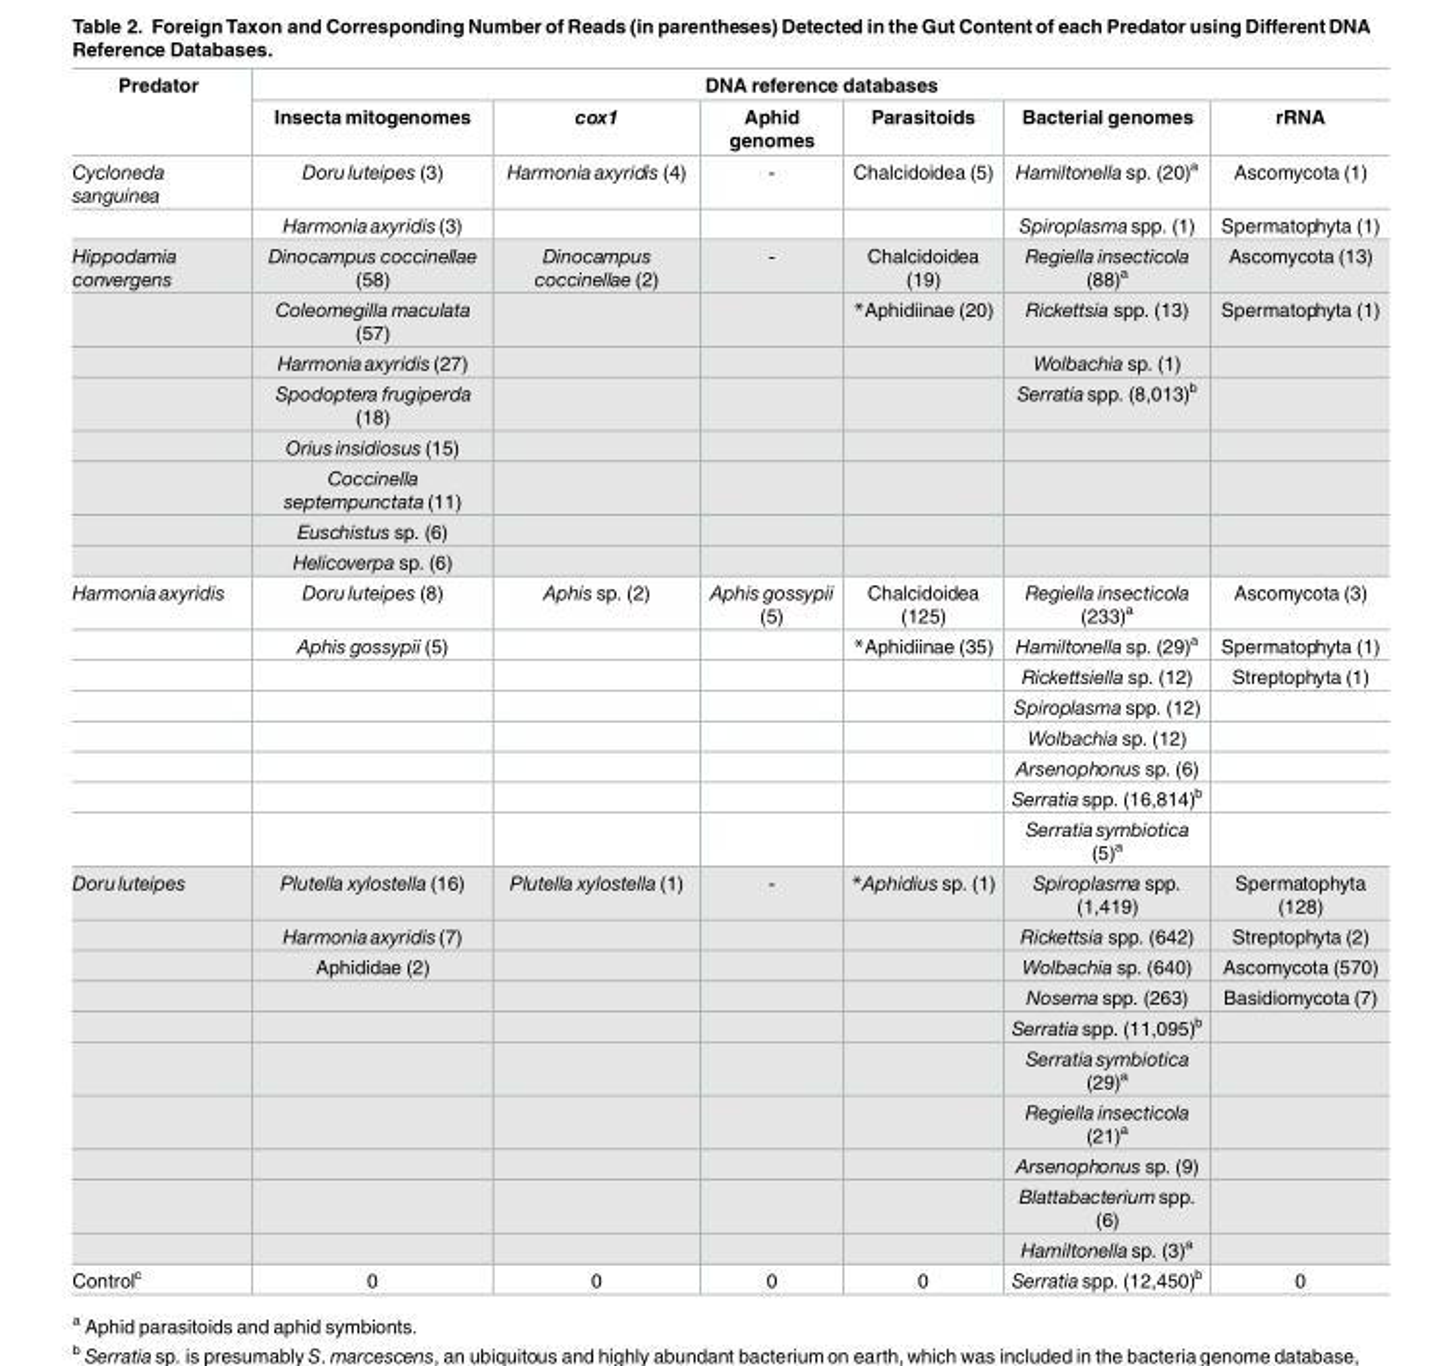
<table><thead><tr><td rowspan="2">Predator</td><td colspan="6">DNA reference databases</td></tr><tr><td>Insecta mitogenomes</td><td>cox1</td><td>Aphid genomes</td><td>Parasitoids</td><td>Bacterial genomes</td><td>rRNA</td></tr></thead><tbody><tr><td rowspan="2">Cycloneda sanguinea</td><td>Doru luteipes (3)</td><td>Harmonia axyridis (4)</td><td>-</td><td>Chalcidoidea (5)</td><td>Hamiltonella sp. (20)<sup>a</sup></td><td>Ascomycota (1)</td></tr><tr><td>Harmoniaaxyridis (3)</td><td></td><td></td><td></td><td>Spiroplasmaspp. (1)</td><td>Spermatophyta (1)</td></tr><tr><td rowspan="8">Hippodamia convergens</td><td>Dinocampus coccinellae (58)</td><td>Dinocampus coccinellae (2)</td><td>-</td><td>Chalcidoidea (19)</td><td>Regiella insecticola (88)<sup>a</sup></td><td>Ascomycota (13)</td></tr><tr><td>Coleomegilla maculata (57)</td><td></td><td></td><td>*Aphidiinae (20)</td><td>Rickettsia spp. (13)</td><td>Spermatophyta (1)</td></tr><tr><td>Harmoniaaxyridis (27)</td><td></td><td></td><td></td><td>Wolbachia sp. (1)</td><td></td></tr><tr><td>Spodoptera frugiperda (18)</td><td></td><td></td><td></td><td>Serratia spp. (8,013)<sup>b</sup></td><td></td></tr><tr><td>Orius insidiosus (15)</td><td></td><td></td><td></td><td></td><td></td></tr><tr><td>Coccinella septempunctata (11)</td><td></td><td></td><td></td><td></td><td></td></tr><tr><td>Euschistus sp. (6)</td><td></td><td></td><td></td><td></td><td></td></tr><tr><td>Helicoverpa sp. (6)</td><td></td><td></td><td></td><td></td><td></td></tr><tr><td rowspan="8">Harmoniaaxyridis</td><td>Doru luteipes (8)</td><td>Aphis sp. (2)</td><td>Aphis gossypii (5)</td><td>Chalcidoidea (125)</td><td>Regiella insecticola (233)<sup>a</sup></td><td>Ascomycota (3)</td></tr><tr><td>Aphis gossypii (5)</td><td></td><td></td><td>*Aphidiinae (35)</td><td>Hamiltonella sp. (29)<sup>a</sup></td><td>Spermatophyta (1)</td></tr><tr><td></td><td></td><td></td><td></td><td>Rickettsiella sp. (12)</td><td>Streptophyta (1)</td></tr><tr><td></td><td></td><td></td><td></td><td>Spiroplasma spp. (12)</td><td></td></tr><tr><td></td><td></td><td></td><td></td><td>Wolbachia sp. (12)</td><td></td></tr><tr><td></td><td></td><td></td><td></td><td>Arsenophonus sp. (6)</td><td></td></tr><tr><td></td><td></td><td></td><td></td><td>Serratia spp. (16,814)<sup>b</sup></td><td></td></tr><tr><td></td><td></td><td></td><td></td><td>Serratia symbiotica (5)<sup>a</sup></td><td></td></tr><tr><td rowspan="10">Doru luteipes</td><td>Plutella xylostella (16)</td><td>Plutella xylostella (1)</td><td>-</td><td>*Aphidius sp. (1)</td><td>Spiroplasma spp. (1,419)</td><td>Spermatophyta (128)</td></tr><tr><td>Harmoniaaxyridis (7)</td><td></td><td></td><td></td><td>Rickettsia spp. (642)</td><td>Streptophyta (2)</td></tr><tr><td>Aphididae (2)</td><td></td><td></td><td></td><td>Wolbachia sp. (640)</td><td>Ascomycota (570)</td></tr><tr><td></td><td></td><td></td><td></td><td>Nosema spp. (263)</td><td>Basidiomycota (7)</td></tr><tr><td></td><td></td><td></td><td></td><td>Serratia spp. (11,095)<sup>b</sup></td><td></td></tr><tr><td></td><td></td><td></td><td></td><td>Serratia symbiotica (29)<sup>a</sup></td><td></td></tr><tr><td></td><td></td><td></td><td></td><td>Regiella insecticola (21)<sup>a</sup></td><td></td></tr><tr><td></td><td></td><td></td><td></td><td>Arsenophonus sp. (9)</td><td></td></tr><tr><td></td><td></td><td></td><td></td><td>Blattabacterium spp. (6)</td><td></td></tr><tr><td></td><td></td><td></td><td></td><td>Hamiltonella sp. (3)<sup>a</sup></td><td></td></tr><tr><td>Control<sup>c</sup></td><td>0</td><td>0</td><td>0</td><td>0</td><td>Serratia spp. (12,450)<sup>b</sup></td><td>0</td></tr></tbody></table>